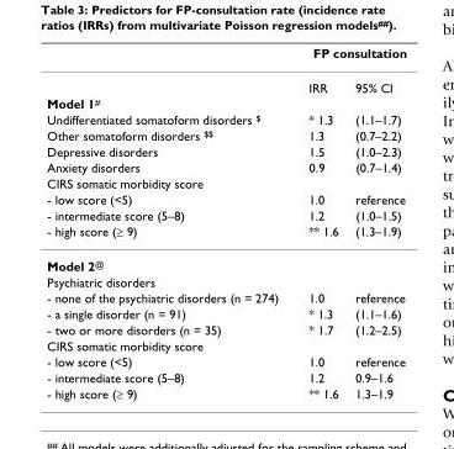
<table><thead><tr><td rowspan="2"></td><td colspan="2">FP consultation</td></tr><tr><td>IRR</td><td>95% CI</td></tr></thead><tbody><tr><td colspan="3">Model 1<sup>#</sup></td></tr><tr><td>Undifferentiated somatoform disorders <sup>$</sup></td><td>* 1.3</td><td>(1.1–1.7)</td></tr><tr><td>Other somatoform disorders <sup>$$</sup></td><td>1.3</td><td>(0.7–2.2)</td></tr><tr><td>Depressive disorders</td><td>1.5</td><td>(1.0–2.3)</td></tr><tr><td>Anxiety disorders</td><td>0.9</td><td>(0.7–1.4)</td></tr><tr><td colspan="3">CIRS somatic morbidity score</td></tr><tr><td>- low score (&lt;5)</td><td>1.0</td><td>reference</td></tr><tr><td>- intermediate score (5–8)</td><td>1.2</td><td>(1.0–1.5)</td></tr><tr><td>- high score (≥ 9)</td><td>** 1.6</td><td>(1.3–1.9)</td></tr><tr><td colspan="3">Model 2<sup>@</sup></td></tr><tr><td colspan="3">Psychiatric disorders</td></tr><tr><td>- none of the psychiatric disorders (n = 274)</td><td>1.0</td><td>reference</td></tr><tr><td>- a single disorder (n = 91)</td><td>* 1.3</td><td>(1.1–1.6)</td></tr><tr><td>- two or more disorders (n = 35)</td><td>* 1.7</td><td>(1.2–2.5)</td></tr><tr><td colspan="3">CIRS somatic morbidity score</td></tr><tr><td>- low score (&lt;5)</td><td>1.0</td><td>reference</td></tr><tr><td>- intermediate score (5–8)</td><td>1.2</td><td>0.9–1.6</td></tr><tr><td>- high score (≥ 9)</td><td>** 1.6</td><td>1.3–1.9</td></tr></tbody></table>